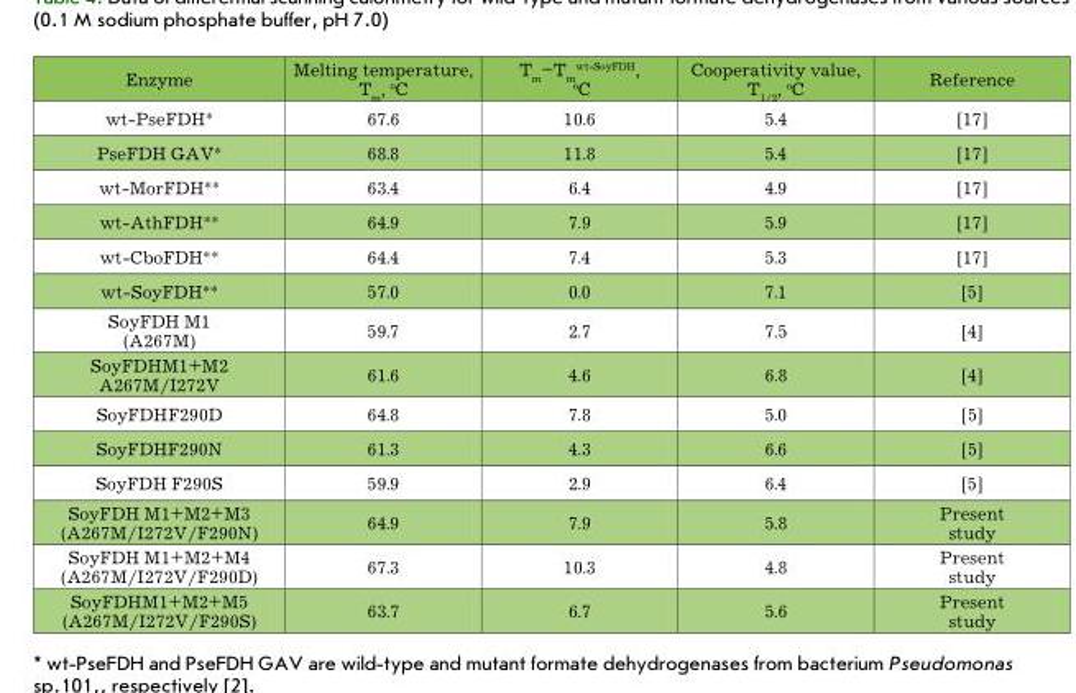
<table><thead><tr><td>Enzyme</td><td>Melting temperature, T<sub>m</sub>, °C</td><td>T<sub>m</sub>–T<sub>m</sub> <sup>wt-SoyFDH</sup>, °C</td><td>Cooperativity value, T<sub>1/2</sub>, °C</td><td>Reference</td></tr></thead><tbody><tr><td>wt-PseFDH*</td><td>67.6</td><td>10.6</td><td>5.4</td><td>[17]</td></tr><tr><td>PseFDH GAV*</td><td>68.8</td><td>11.8</td><td>5.4</td><td>[17]</td></tr><tr><td>wt-MorFDH**</td><td>63.4</td><td>6.4</td><td>4.9</td><td>[17]</td></tr><tr><td>wt-AthFDH**</td><td>64.9</td><td>7.9</td><td>5.9</td><td>[17]</td></tr><tr><td>wt-CboFDH**</td><td>64.4</td><td>7.4</td><td>5.3</td><td>[17]</td></tr><tr><td>wt-SoyFDH**</td><td>57.0</td><td>0.0</td><td>7.1</td><td>[5]</td></tr><tr><td>SoyFDH М1 (A267M)</td><td>59.7</td><td>2.7</td><td>7.5</td><td>[4]</td></tr><tr><td>SoyFDHМ1+М2 A267M/I272V</td><td>61.6</td><td>4.6</td><td>6.8</td><td>[4]</td></tr><tr><td>SoyFDHF290D</td><td>64.8</td><td>7.8</td><td>5.0</td><td>[5]</td></tr><tr><td>SoyFDHF290N</td><td>61.3</td><td>4.3</td><td>6.6</td><td>[5]</td></tr><tr><td>SoyFDH F290S</td><td>59.9</td><td>2.9</td><td>6.4</td><td>[5]</td></tr><tr><td>SoyFDH М1+М2+М3 (A267M/I272V/F290N)</td><td>64.9</td><td>7.9</td><td>5.8</td><td>Present study</td></tr><tr><td>SoyFDH М1+М2+М4 (A267M/I272V/F290D)</td><td>67.3</td><td>10.3</td><td>4.8</td><td>Present study</td></tr><tr><td>SoyFDHМ1+М2+М5 (A267M/I272V/F290S)</td><td>63.7</td><td>6.7</td><td>5.6</td><td>Present study</td></tr></tbody></table>